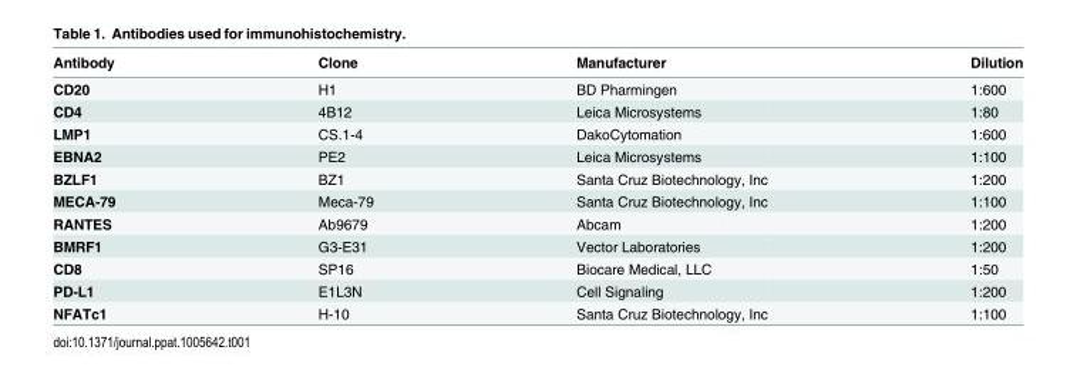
<table><thead><tr><td>Antibody</td><td>Clone</td><td>Manufacturer</td><td>Dilution</td></tr></thead><tbody><tr><td>CD20</td><td>H1</td><td>BD Pharmingen</td><td>1:600</td></tr><tr><td>CD4</td><td>4B12</td><td>Leica Microsystems</td><td>1:80</td></tr><tr><td>LMP1</td><td>CS.1-4</td><td>DakoCytomation</td><td>1:600</td></tr><tr><td>EBNA2</td><td>PE2</td><td>Leica Microsystems</td><td>1:100</td></tr><tr><td>BZLF1</td><td>BZ1</td><td>Santa Cruz Biotechnology, Inc</td><td>1:200</td></tr><tr><td>MECA-79</td><td>Meca-79</td><td>Santa Cruz Biotechnology, Inc</td><td>1:100</td></tr><tr><td>RANTES</td><td>Ab9679</td><td>Abcam</td><td>1:200</td></tr><tr><td>BMRF1</td><td>G3-E31</td><td>Vector Laboratories</td><td>1:200</td></tr><tr><td>CD8</td><td>SP16</td><td>Biocare Medical, LLC</td><td>1:50</td></tr><tr><td>PD-L1</td><td>E1L3N</td><td>Cell Signaling</td><td>1:200</td></tr><tr><td>NFATc1</td><td>H-10</td><td>Santa Cruz Biotechnology, Inc</td><td>1:100</td></tr></tbody></table>